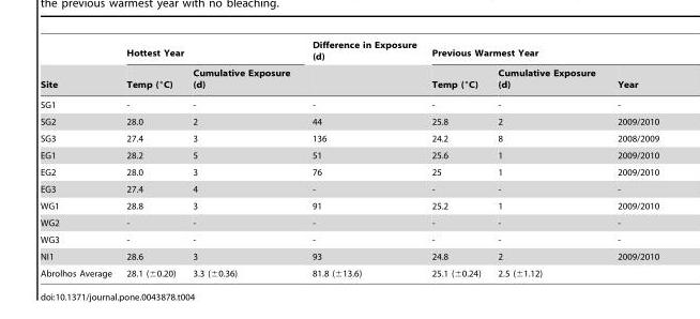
<table><thead><tr><td rowspan="2">Site</td><td colspan="2">Hottest Year</td><td rowspan="2">Difference in Exposure (d)</td><td colspan="3">Previous Warmest Year</td></tr><tr><td>Temp (°C)</td><td>Cumulative Exposure (d)</td><td>Temp (°C)</td><td>Cumulative Exposure (d)</td><td>Year</td></tr></thead><tbody><tr><td>SG1</td><td>-</td><td>-</td><td>-</td><td>-</td><td>-</td><td>-</td></tr><tr><td>SG2</td><td>28.0</td><td>2</td><td>44</td><td>25.8</td><td>2</td><td>2009/2010</td></tr><tr><td>SG3</td><td>27.4</td><td>3</td><td>136</td><td>24.2</td><td>8</td><td>2008/2009</td></tr><tr><td>EG1</td><td>28.2</td><td>5</td><td>51</td><td>25.6</td><td>1</td><td>2009/2010</td></tr><tr><td>EG2</td><td>28.0</td><td>3</td><td>76</td><td>25</td><td>1</td><td>2009/2010</td></tr><tr><td>EG3</td><td>27.4</td><td>4</td><td>-</td><td>-</td><td>-</td><td>-</td></tr><tr><td>WG1</td><td>28.8</td><td>3</td><td>91</td><td>25.2</td><td>1</td><td>2009/2010</td></tr><tr><td>WG2</td><td>-</td><td>-</td><td>-</td><td>-</td><td>-</td><td>-</td></tr><tr><td>WG3</td><td>-</td><td>-</td><td>-</td><td>-</td><td>-</td><td>-</td></tr><tr><td>NI1</td><td>28.6</td><td>3</td><td>93</td><td>24.8</td><td>2</td><td>2009/2010</td></tr><tr><td>Abrolhos Average</td><td>28.1 (±0.20)</td><td>3.3 (±0.36)</td><td>81.8 (±13.6)</td><td>25.1 (±0.24)</td><td>2.5 (±1.12)</td><td></td></tr></tbody></table>